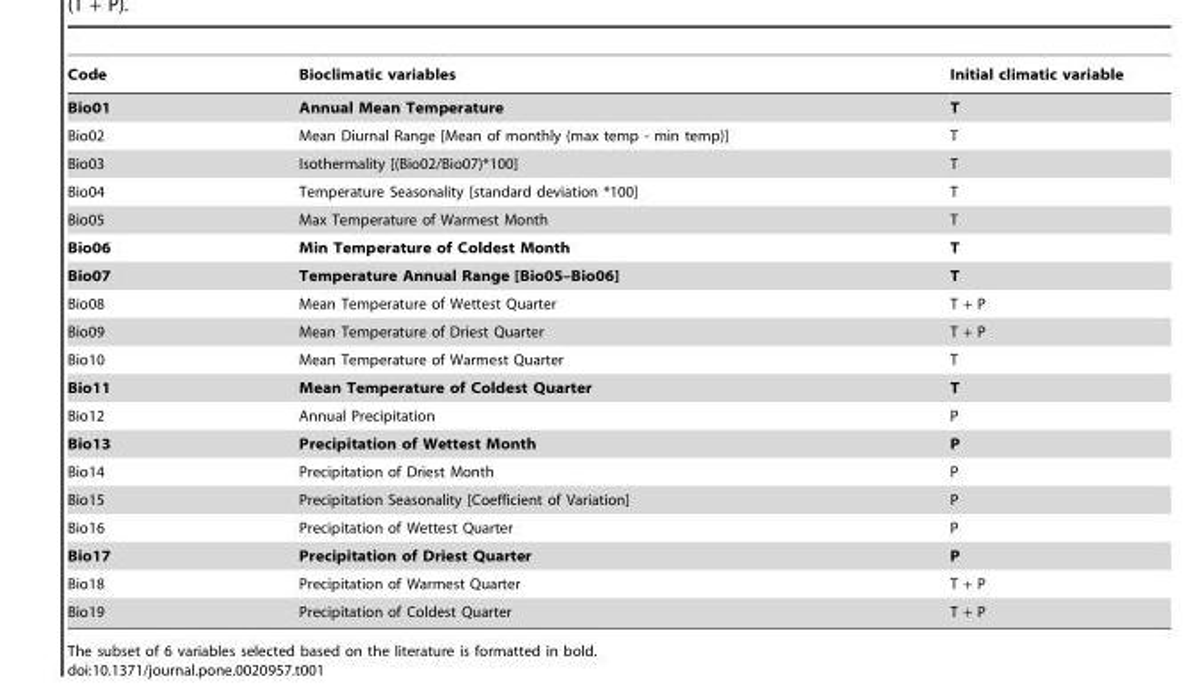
<table><thead><tr><td>Code</td><td>Bioclimatic variables</td><td>Initial climatic variable</td></tr></thead><tbody><tr><td>Bio01</td><td>Annual Mean Temperature</td><td>T</td></tr><tr><td>Bio02</td><td>Mean Diurnal Range [Mean of monthly (max temp - min temp)]</td><td>T</td></tr><tr><td>Bio03</td><td>Isothermality [(Bio02/Bio07)*100]</td><td>T</td></tr><tr><td>Bio04</td><td>Temperature Seasonality [standard deviation *100]</td><td>T</td></tr><tr><td>Bio05</td><td>Max Temperature of Warmest Month</td><td>T</td></tr><tr><td>Bio06</td><td>Min Temperature of Coldest Month</td><td>T</td></tr><tr><td>Bio07</td><td>Temperature Annual Range [Bio05–Bio06]</td><td>T</td></tr><tr><td>Bio08</td><td>Mean Temperature of Wettest Quarter</td><td>T + P</td></tr><tr><td>Bio09</td><td>Mean Temperature of Driest Quarter</td><td>T + P</td></tr><tr><td>Bio10</td><td>Mean Temperature of Warmest Quarter</td><td>T</td></tr><tr><td>Bio11</td><td>Mean Temperature of Coldest Quarter</td><td>T</td></tr><tr><td>Bio12</td><td>Annual Precipitation</td><td>P</td></tr><tr><td>Bio13</td><td>Precipitation of Wettest Month</td><td>P</td></tr><tr><td>Bio14</td><td>Precipitation of Driest Month</td><td>P</td></tr><tr><td>Bio15</td><td>Precipitation Seasonality [Coefficient of Variation]</td><td>P</td></tr><tr><td>Bio16</td><td>Precipitation of Wettest Quarter</td><td>P</td></tr><tr><td>Bio17</td><td>Precipitation of Driest Quarter</td><td>P</td></tr><tr><td>Bio18</td><td>Precipitation of Warmest Quarter</td><td>T + P</td></tr><tr><td>Bio19</td><td>Precipitation of Coldest Quarter</td><td>T + P</td></tr></tbody></table>